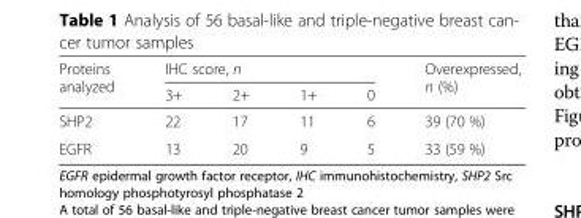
<table><thead><tr><td rowspan="2">Proteins analyzed</td><td colspan="4">IHC score, n</td><td rowspan="2">Overexpressed, n (%)</td></tr><tr><td>3+</td><td>2+</td><td>1+</td><td>0</td></tr></thead><tbody><tr><td>SHP2</td><td>22</td><td>17</td><td>11</td><td>6</td><td>39 (70 %)</td></tr><tr><td>EGFR</td><td>13</td><td>20</td><td>9</td><td>5</td><td>33 (59 %)</td></tr></tbody></table>